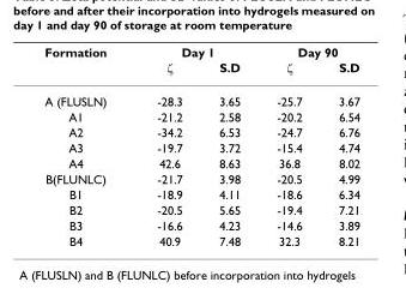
<table><thead><tr><td rowspan="2">Formation</td><td colspan="2">Day 1</td><td colspan="2">Day 90</td></tr><tr><td>ζ</td><td>S.D</td><td>ζ</td><td>S.D</td></tr></thead><tbody><tr><td>A (FLUSLN)</td><td>-28.3</td><td>3.65</td><td>-25.7</td><td>3.67</td></tr><tr><td>A1</td><td>-21.2</td><td>2.58</td><td>-20.2</td><td>6.54</td></tr><tr><td>A2</td><td>-34.2</td><td>6.53</td><td>-24.7</td><td>6.76</td></tr><tr><td>A3</td><td>-19.7</td><td>3.72</td><td>-15.4</td><td>4.74</td></tr><tr><td>A4</td><td>42.6</td><td>8.63</td><td>36.8</td><td>8.02</td></tr><tr><td>B(FLUNLC)</td><td>-21.7</td><td>3.98</td><td>-20.5</td><td>4.99</td></tr><tr><td>B1</td><td>-18.9</td><td>4.11</td><td>-18.6</td><td>6.34</td></tr><tr><td>B2</td><td>-20.5</td><td>5.65</td><td>-19.4</td><td>7.21</td></tr><tr><td>B3</td><td>-16.6</td><td>4.23</td><td>-14.6</td><td>3.89</td></tr><tr><td>B4</td><td>40.9</td><td>7.48</td><td>32.3</td><td>8.21</td></tr></tbody></table>